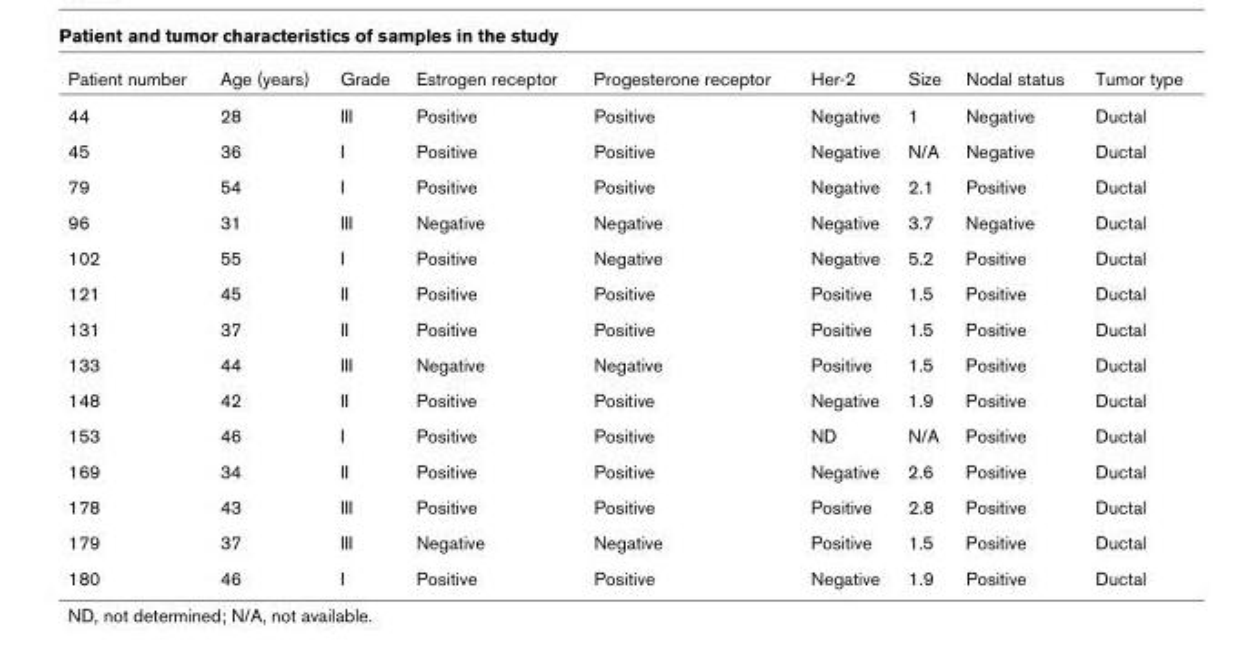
<table><thead><tr><td>Patient number</td><td>Age (years)</td><td>Grade</td><td>Estrogen receptor</td><td>Progesterone receptor</td><td>Her-2</td><td>Size</td><td>Nodal status</td><td>Tumor type</td></tr></thead><tbody><tr><td>44</td><td>28</td><td>III</td><td>Positive</td><td>Positive</td><td>Negative</td><td>1</td><td>Negative</td><td>Ductal</td></tr><tr><td>45</td><td>36</td><td>I</td><td>Positive</td><td>Positive</td><td>Negative</td><td>N/A</td><td>Negative</td><td>Ductal</td></tr><tr><td>79</td><td>54</td><td>I</td><td>Positive</td><td>Positive</td><td>Negative</td><td>2.1</td><td>Positive</td><td>Ductal</td></tr><tr><td>96</td><td>31</td><td>III</td><td>Negative</td><td>Negative</td><td>Negative</td><td>3.7</td><td>Negative</td><td>Ductal</td></tr><tr><td>102</td><td>55</td><td>I</td><td>Positive</td><td>Negative</td><td>Negative</td><td>5.2</td><td>Positive</td><td>Ductal</td></tr><tr><td>121</td><td>45</td><td>II</td><td>Positive</td><td>Positive</td><td>Positive</td><td>1.5</td><td>Positive</td><td>Ductal</td></tr><tr><td>131</td><td>37</td><td>II</td><td>Positive</td><td>Positive</td><td>Positive</td><td>1.5</td><td>Positive</td><td>Ductal</td></tr><tr><td>133</td><td>44</td><td>III</td><td>Negative</td><td>Negative</td><td>Positive</td><td>1.5</td><td>Positive</td><td>Ductal</td></tr><tr><td>148</td><td>42</td><td>II</td><td>Positive</td><td>Positive</td><td>Negative</td><td>1.9</td><td>Positive</td><td>Ductal</td></tr><tr><td>153</td><td>46</td><td>I</td><td>Positive</td><td>Positive</td><td>ND</td><td>N/A</td><td>Positive</td><td>Ductal</td></tr><tr><td>169</td><td>34</td><td>II</td><td>Positive</td><td>Positive</td><td>Negative</td><td>2.6</td><td>Positive</td><td>Ductal</td></tr><tr><td>178</td><td>43</td><td>III</td><td>Positive</td><td>Positive</td><td>Positive</td><td>2.8</td><td>Positive</td><td>Ductal</td></tr><tr><td>179</td><td>37</td><td>III</td><td>Negative</td><td>Negative</td><td>Positive</td><td>1.5</td><td>Positive</td><td>Ductal</td></tr><tr><td>180</td><td>46</td><td>I</td><td>Positive</td><td>Positive</td><td>Negative</td><td>1.9</td><td>Positive</td><td>Ductal</td></tr></tbody></table>